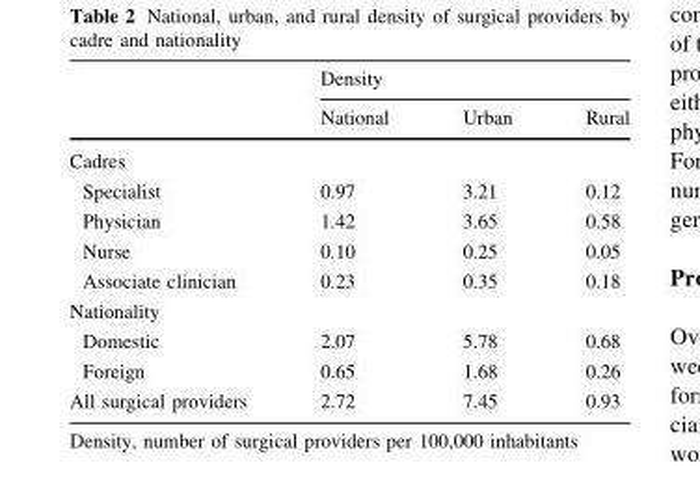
<table><thead><tr><td rowspan="2"></td><td colspan="3">Density</td></tr><tr><td>National</td><td>Urban</td><td>Rural</td></tr></thead><tbody><tr><td colspan="4">Cadres</td></tr><tr><td>Specialist</td><td>0.97</td><td>3.21</td><td>0.12</td></tr><tr><td>Physician</td><td>1.42</td><td>3.65</td><td>0.58</td></tr><tr><td>Nurse</td><td>0.10</td><td>0.25</td><td>0.05</td></tr><tr><td>Associate clinician</td><td>0.23</td><td>0.35</td><td>0.18</td></tr><tr><td colspan="4">Nationality</td></tr><tr><td>Domestic</td><td>2.07</td><td>5.78</td><td>0.68</td></tr><tr><td>Foreign</td><td>0.65</td><td>1.68</td><td>0.26</td></tr><tr><td>All surgical providers</td><td>2.72</td><td>7.45</td><td>0.93</td></tr></tbody></table>